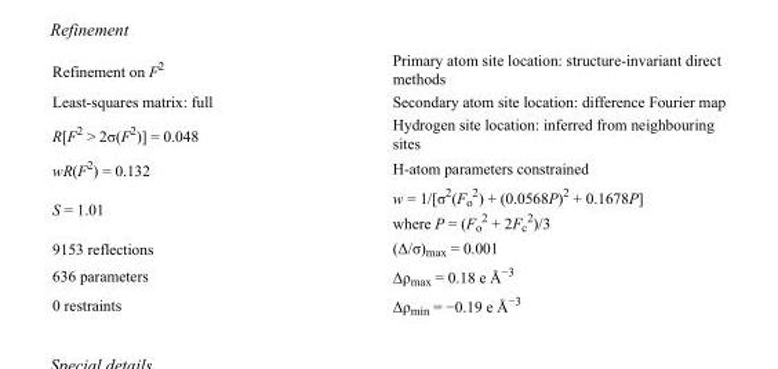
<table><tbody><tr><td>Refinement on F<sup>2</sup></td><td>Primary atom site location: structure-invariant direct methods</td></tr><tr><td>Least-squares matrix: full</td><td>Secondary atom site location: difference Fourier map</td></tr><tr><td>R[F<sup>2</sup> &gt; 2σ(F<sup>2</sup>)] = 0.048</td><td>Hydrogen site location: inferred from neighbouring sites</td></tr><tr><td>wR(F<sup>2</sup>) = 0.132</td><td>H-atom parameters constrained</td></tr><tr><td>S = 1.01</td><td>w = 1/[σ<sup>2</sup>(F<sub>o</sub> <sup>2</sup>) + (0.0568P)<sup>2</sup> + 0.1678P] where P = (F<sub>o</sub> <sup>2</sup> + 2F<sub>c</sub> <sup>2</sup>)/3</td></tr><tr><td>9153 reflections</td><td>(Δ/σ)<sub>max</sub> = 0.001</td></tr><tr><td>636 parameters</td><td>Δρ<sub>max</sub> = 0.18 e Å<sup>−3</sup></td></tr><tr><td>0 restraints</td><td>Δρ<sub>min</sub> = −0.19 e Å<sup>−3</sup></td></tr></tbody></table>